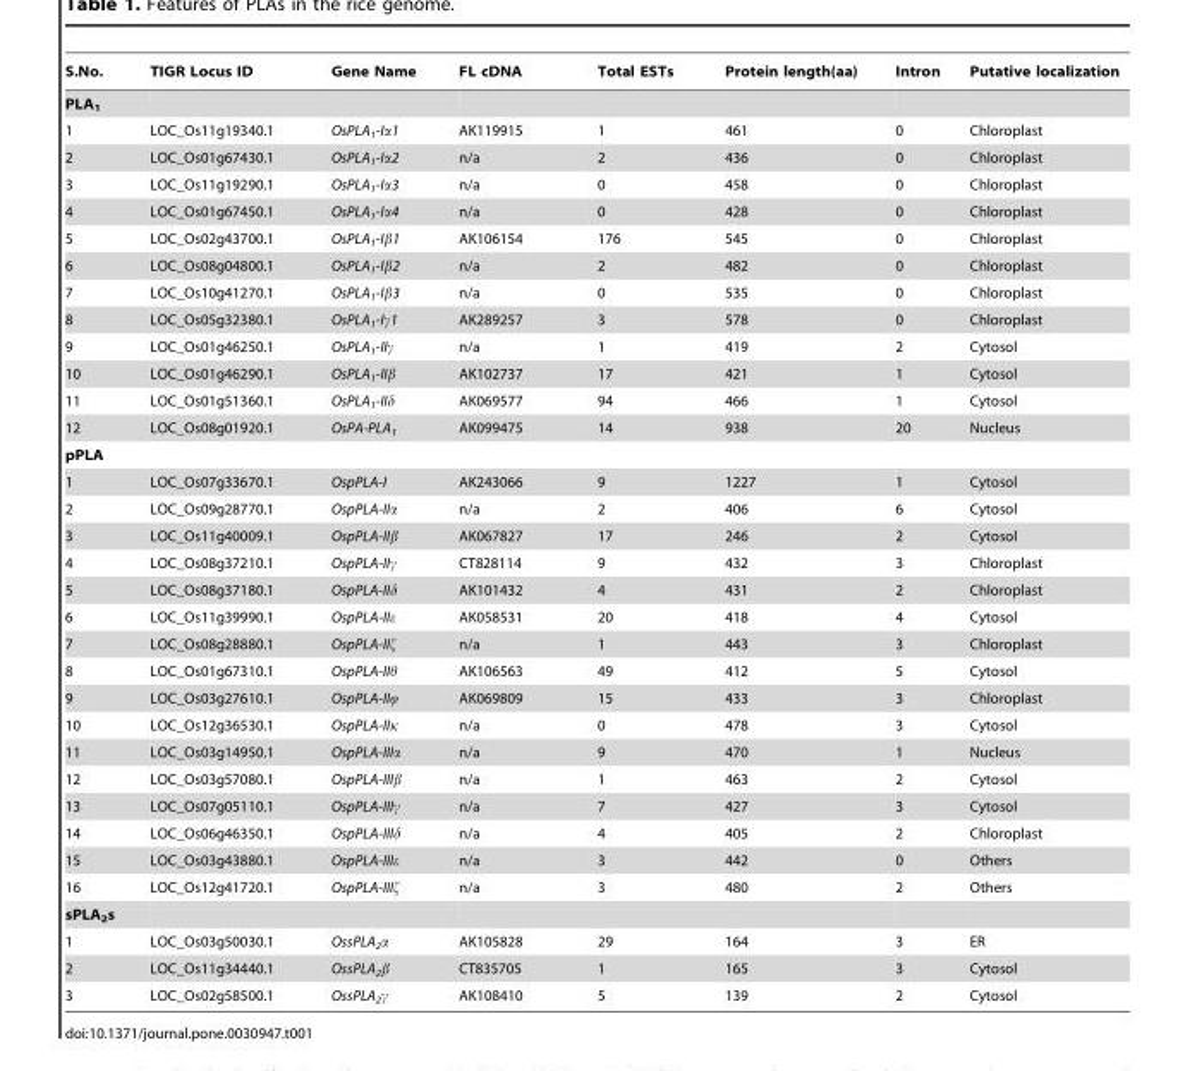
<table><thead><tr><td>S.No.</td><td>TIGR Locus ID</td><td>Gene Name</td><td>FL cDNA</td><td>Total ESTs</td><td>Protein length(aa)</td><td>Intron</td><td>Putative localization</td></tr></thead><tbody><tr><td colspan="8">PLA<sub>1</sub></td></tr><tr><td>1</td><td>LOC_Os11g19340.1</td><td>OsPLA<sub>1</sub>-Iα1</td><td>AK119915</td><td>1</td><td>461</td><td>0</td><td>Chloroplast</td></tr><tr><td>2</td><td>LOC_Os01g67430.1</td><td>OsPLA<sub>1</sub>-Iα2</td><td>n/a</td><td>2</td><td>436</td><td>0</td><td>Chloroplast</td></tr><tr><td>3</td><td>LOC_Os11g19290.1</td><td>OsPLA<sub>1</sub>-Iα3</td><td>n/a</td><td>0</td><td>458</td><td>0</td><td>Chloroplast</td></tr><tr><td>4</td><td>LOC_Os01g67450.1</td><td>OsPLA<sub>1</sub>-Iα4</td><td>n/a</td><td>0</td><td>428</td><td>0</td><td>Chloroplast</td></tr><tr><td>5</td><td>LOC_Os02g43700.1</td><td>OsPLA<sub>1</sub>-Iβ1</td><td>AK106154</td><td>176</td><td>545</td><td>0</td><td>Chloroplast</td></tr><tr><td>6</td><td>LOC_Os08g04800.1</td><td>OsPLA<sub>1</sub>-Iβ2</td><td>n/a</td><td>2</td><td>482</td><td>0</td><td>Chloroplast</td></tr><tr><td>7</td><td>LOC_Os10g41270.1</td><td>OsPLA<sub>1</sub>-Iβ3</td><td>n/a</td><td>0</td><td>535</td><td>0</td><td>Chloroplast</td></tr><tr><td>8</td><td>LOC_Os05g32380.1</td><td>OsPLA<sub>1</sub>-Iγ1</td><td>AK289257</td><td>3</td><td>578</td><td>0</td><td>Chloroplast</td></tr><tr><td>9</td><td>LOC_Os01g46250.1</td><td>OsPLA<sub>1</sub>-IIγ</td><td>n/a</td><td>1</td><td>419</td><td>2</td><td>Cytosol</td></tr><tr><td>10</td><td>LOC_Os01g46290.1</td><td>OsPLA<sub>1</sub>-IIβ</td><td>AK102737</td><td>17</td><td>421</td><td>1</td><td>Cytosol</td></tr><tr><td>11</td><td>LOC_Os01g51360.1</td><td>OsPLA<sub>1</sub>-IIδ</td><td>AK069577</td><td>94</td><td>466</td><td>1</td><td>Cytosol</td></tr><tr><td>12</td><td>LOC_Os08g01920.1</td><td>OsPA-PLA<sub>1</sub></td><td>AK099475</td><td>14</td><td>938</td><td>20</td><td>Nucleus</td></tr><tr><td colspan="8">pPLA</td></tr><tr><td>1</td><td>LOC_Os07g33670.1</td><td>OspPLA-I</td><td>AK243066</td><td>9</td><td>1227</td><td>1</td><td>Cytosol</td></tr><tr><td>2</td><td>LOC_Os09g28770.1</td><td>OspPLA-IIα</td><td>n/a</td><td>2</td><td>406</td><td>6</td><td>Cytosol</td></tr><tr><td>3</td><td>LOC_Os11g40009.1</td><td>OspPLA-IIβ</td><td>AK067827</td><td>17</td><td>246</td><td>2</td><td>Cytosol</td></tr><tr><td>4</td><td>LOC_Os08g37210.1</td><td>OspPLA-IIγ</td><td>CT828114</td><td>9</td><td>432</td><td>3</td><td>Chloroplast</td></tr><tr><td>5</td><td>LOC_Os08g37180.1</td><td>OspPLA-IIδ</td><td>AK101432</td><td>4</td><td>431</td><td>2</td><td>Chloroplast</td></tr><tr><td>6</td><td>LOC_Os11g39990.1</td><td>OspPLA-IIε</td><td>AK058531</td><td>20</td><td>418</td><td>4</td><td>Cytosol</td></tr><tr><td>7</td><td>LOC_Os08g28880.1</td><td>OspPLA-IIζ</td><td>n/a</td><td>1</td><td>443</td><td>3</td><td>Chloroplast</td></tr><tr><td>8</td><td>LOC_Os01g67310.1</td><td>OspPLA-IIθ</td><td>AK106563</td><td>49</td><td>412</td><td>5</td><td>Cytosol</td></tr><tr><td>9</td><td>LOC_Os03g27610.1</td><td>OspPLA-IIϕ</td><td>AK069809</td><td>15</td><td>433</td><td>3</td><td>Chloroplast</td></tr><tr><td>10</td><td>LOC_Os12g36530.1</td><td>OspPLA-IIκ</td><td>n/a</td><td>0</td><td>478</td><td>3</td><td>Cytosol</td></tr><tr><td>11</td><td>LOC_Os03g14950.1</td><td>OspPLA-IIIα</td><td>n/a</td><td>9</td><td>470</td><td>1</td><td>Nucleus</td></tr><tr><td>12</td><td>LOC_Os03g57080.1</td><td>OspPLA-IIIβ</td><td>n/a</td><td>1</td><td>463</td><td>2</td><td>Cytosol</td></tr><tr><td>13</td><td>LOC_Os07g05110.1</td><td>OspPLA-IIIγ</td><td>n/a</td><td>7</td><td>427</td><td>3</td><td>Cytosol</td></tr><tr><td>14</td><td>LOC_Os06g46350.1</td><td>OspPLA-IIIδ</td><td>n/a</td><td>4</td><td>405</td><td>2</td><td>Chloroplast</td></tr><tr><td>15</td><td>LOC_Os03g43880.1</td><td>OspPLA-IIIε</td><td>n/a</td><td>3</td><td>442</td><td>0</td><td>Others</td></tr><tr><td>16</td><td>LOC_Os12g41720.1</td><td>OspPLA-IIIζ</td><td>n/a</td><td>3</td><td>480</td><td>2</td><td>Others</td></tr><tr><td colspan="8">sPLA<sub>2</sub>s</td></tr><tr><td>1</td><td>LOC_Os03g50030.1</td><td>OssPLA<sub>2</sub>α</td><td>AK105828</td><td>29</td><td>164</td><td>3</td><td>ER</td></tr><tr><td>2</td><td>LOC_Os11g34440.1</td><td>OssPLA<sub>2</sub>β</td><td>CT835705</td><td>1</td><td>165</td><td>3</td><td>Cytosol</td></tr><tr><td>3</td><td>LOC_Os02g58500.1</td><td>OssPLA<sub>2</sub>γ</td><td>AK108410</td><td>5</td><td>139</td><td>2</td><td>Cytosol</td></tr></tbody></table>